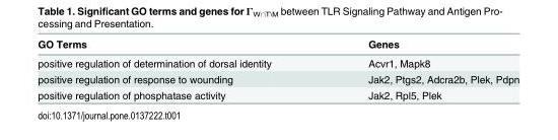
<table><thead><tr><td>GO Terms</td><td>Genes</td></tr></thead><tbody><tr><td>positive regulation of determination of dorsal identity</td><td>Acvr1, Mapk8</td></tr><tr><td>positive regulation of response to wounding</td><td>Jak2, Ptgs2, Adcra2b, Plek, Pdpn</td></tr><tr><td>positive regulation of phosphatase activity</td><td>Jak2, Rpl5, Plek</td></tr></tbody></table>